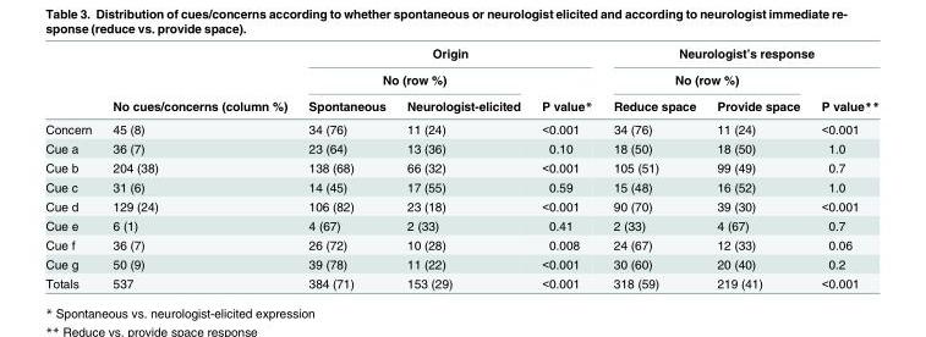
<table><thead><tr><td rowspan="3"></td><td rowspan="3">No cues/concerns (column %)</td><td colspan="3">Origin</td><td colspan="3">Neurologist’s response</td></tr><tr><td colspan="2">No (row %)</td><td rowspan="2">P value*</td><td colspan="2">No (row %)</td><td rowspan="2">P value**</td></tr><tr><td>Spontaneous</td><td>Neurologist-elicited</td><td>Reduce space</td><td>Provide space</td></tr></thead><tbody><tr><td>Concern</td><td>45 (8)</td><td>34 (76)</td><td>11 (24)</td><td>&lt;0.001</td><td>34 (76)</td><td>11 (24)</td><td>&lt;0.001</td></tr><tr><td>Cue a</td><td>36 (7)</td><td>23 (64)</td><td>13 (36)</td><td>0.10</td><td>18 (50)</td><td>18 (50)</td><td>1.0</td></tr><tr><td>Cue b</td><td>204 (38)</td><td>138 (68)</td><td>66 (32)</td><td>&lt;0.001</td><td>105 (51)</td><td>99 (49)</td><td>0.7</td></tr><tr><td>Cue c</td><td>31 (6)</td><td>14 (45)</td><td>17 (55)</td><td>0.59</td><td>15 (48)</td><td>16 (52)</td><td>1.0</td></tr><tr><td>Cue d</td><td>129 (24)</td><td>106 (82)</td><td>23 (18)</td><td>&lt;0.001</td><td>90 (70)</td><td>39 (30)</td><td>&lt;0.001</td></tr><tr><td>Cue e</td><td>6 (1)</td><td>4 (67)</td><td>2 (33)</td><td>0.41</td><td>2 (33)</td><td>4 (67)</td><td>0.7</td></tr><tr><td>Cue f</td><td>36 (7)</td><td>26 (72)</td><td>10 (28)</td><td>0.008</td><td>24 (67)</td><td>12 (33)</td><td>0.06</td></tr><tr><td>Cue g</td><td>50 (9)</td><td>39 (78)</td><td>11 (22)</td><td>&lt;0.001</td><td>30 (60)</td><td>20 (40)</td><td>0.2</td></tr><tr><td>Totals</td><td>537</td><td>384 (71)</td><td>153 (29)</td><td>&lt;0.001</td><td>318 (59)</td><td>219 (41)</td><td>&lt;0.001</td></tr></tbody></table>